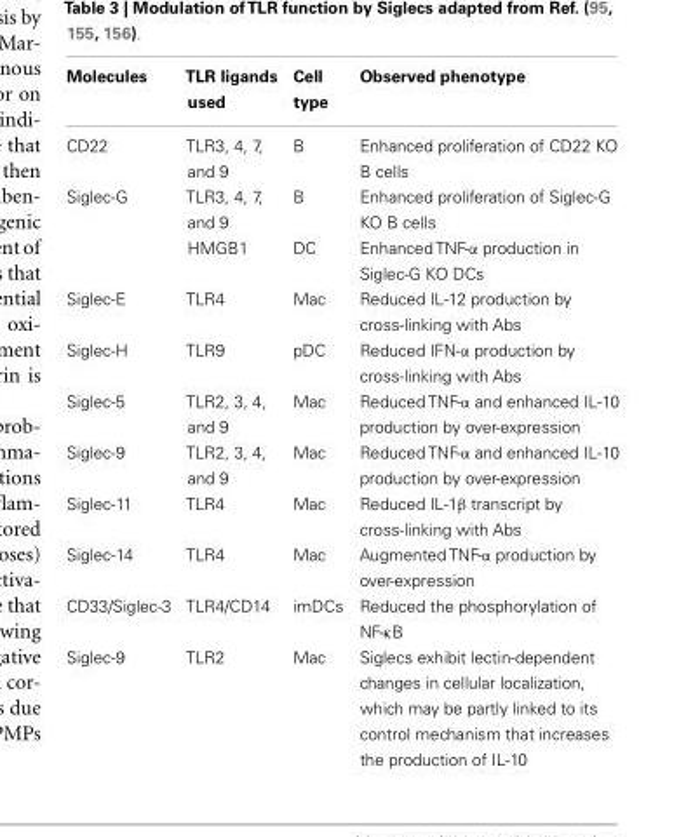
<table><thead><tr><td>Molecules</td><td>TLR ligands used</td><td>Cell type</td><td>Observed phenotype</td></tr></thead><tbody><tr><td>CD22</td><td>TLR3, 4, 7, and 9</td><td>B</td><td>Enhanced proliferation of CD22 KO B cells</td></tr><tr><td rowspan="2">Siglec-G</td><td>TLR3, 4, 7, and 9</td><td>B</td><td>Enhanced proliferation of Siglec-G KO B cells</td></tr><tr><td>HMGB1</td><td>DC</td><td>Enhanced TNF-α production in Siglec-G KO DCs</td></tr><tr><td>Siglec-E</td><td>TLR4</td><td>Mac</td><td>Reduced IL-12 production by cross-linking with Abs</td></tr><tr><td>Siglec-H</td><td>TLR9</td><td>pDC</td><td>Reduced IFN-α production by cross-linking with Abs</td></tr><tr><td>Siglec-5</td><td>TLR2, 3, 4, and 9</td><td>Mac</td><td>Reduced TNF-α and enhanced IL-10 production by over-expression</td></tr><tr><td>Siglec-9</td><td>TLR2, 3, 4, and 9</td><td>Mac</td><td>Reduced TNF-α and enhanced IL-10 production by over-expression</td></tr><tr><td>Siglec-11</td><td>TLR4</td><td>Mac</td><td>Reduced IL-1β transcript by cross-linking with Abs</td></tr><tr><td>Siglec-14</td><td>TLR4</td><td>Mac</td><td>Augmented TNF-α production by over-expression</td></tr><tr><td>CD33/Siglec-3</td><td>TLR4/CD14</td><td>imDCs</td><td>Reduced the phosphorylation of NF-κB</td></tr><tr><td>Siglec-9</td><td>TLR2</td><td>Mac</td><td>Siglecs exhibit lectin-dependent changes in cellular localization, which may be partly linked to its control mechanism that increases the production of IL-10</td></tr></tbody></table>